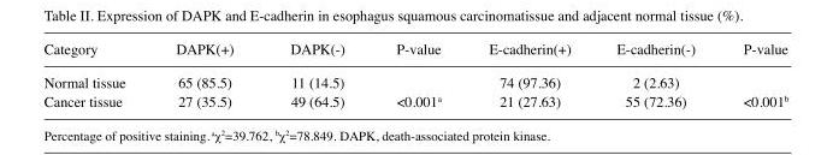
<table><thead><tr><td>Category</td><td>DAPK(+)</td><td>DAPK(‑)</td><td>P‑value</td><td>E‑cadherin(+)</td><td>E‑cadherin(‑)</td><td>P‑value</td></tr></thead><tbody><tr><td>Normal tissue</td><td>65 (85.5)</td><td>11 (14.5)</td><td></td><td>74 (97.36)</td><td>2 (2.63)</td><td></td></tr><tr><td>Cancer tissue</td><td>27 (35.5)</td><td>49 (64.5)</td><td>&lt;0.001a</td><td>21 (27.63)</td><td>55 (72.36)</td><td>&lt;0.001b</td></tr></tbody></table>